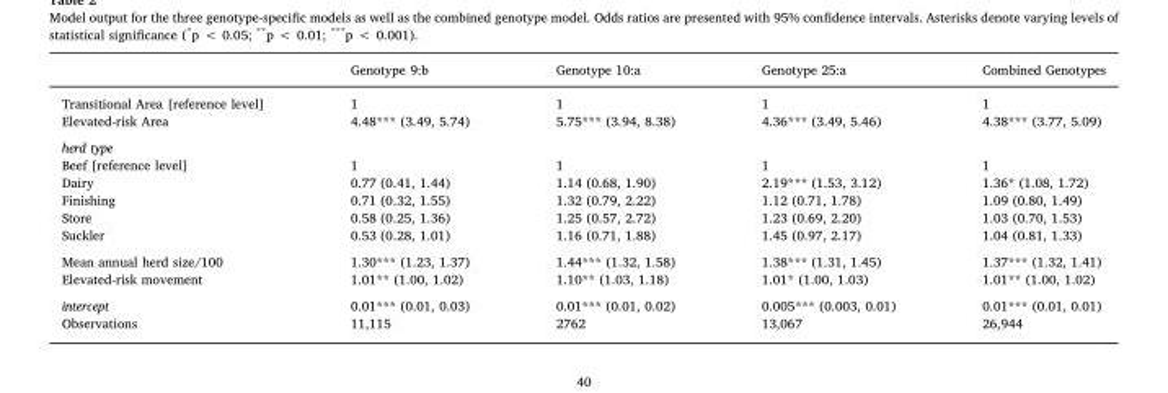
<table><thead><tr><td></td><td>Genotype 9:b</td><td>Genotype 10:a</td><td>Genotype 25:a</td><td>Combined Genotypes</td></tr></thead><tbody><tr><td>Transitional Area [reference level]</td><td>1</td><td>1</td><td>1</td><td>1</td></tr><tr><td>Elevated-risk Area</td><td>4.48*** (3.49, 5.74)</td><td>5.75*** (3.94, 8.38)</td><td>4.36*** (3.49, 5.46)</td><td>4.38*** (3.77, 5.09)</td></tr><tr><td colspan="5">herd type</td></tr><tr><td>Beef [reference level]</td><td>1</td><td>1</td><td>1</td><td>1</td></tr><tr><td>Dairy</td><td>0.77 (0.41, 1.44)</td><td>1.14 (0.68, 1.90)</td><td>2.19*** (1.53, 3.12)</td><td>1.36* (1.08, 1.72)</td></tr><tr><td>Finishing</td><td>0.71 (0.32, 1.55)</td><td>1.32 (0.79, 2.22)</td><td>1.12 (0.71, 1.78)</td><td>1.09 (0.80, 1.49)</td></tr><tr><td>Store</td><td>0.58 (0.25, 1.36)</td><td>1.25 (0.57, 2.72)</td><td>1.23 (0.69, 2.20)</td><td>1.03 (0.70, 1.53)</td></tr><tr><td>Suckler</td><td>0.53 (0.28, 1.01)</td><td>1.16 (0.71, 1.88)</td><td>1.45 (0.97, 2.17)</td><td>1.04 (0.81, 1.33)</td></tr><tr><td>Mean annual herd size/100</td><td>1.30*** (1.23, 1.37)</td><td>1.44*** (1.32, 1.58)</td><td>1.38*** (1.31, 1.45)</td><td>1.37*** (1.32, 1.41)</td></tr><tr><td>Elevated-risk movement</td><td>1.01** (1.00, 1.02)</td><td>1.10** (1.03, 1.18)</td><td>1.01* (1.00, 1.03)</td><td>1.01** (1.00, 1.02)</td></tr><tr><td>intercept</td><td>0.01*** (0.01, 0.03)</td><td>0.01*** (0.01, 0.02)</td><td>0.005*** (0.003, 0.01)</td><td>0.01*** (0.01, 0.01)</td></tr><tr><td>Observations</td><td>11,115</td><td>2762</td><td>13,067</td><td>26,944</td></tr></tbody></table>